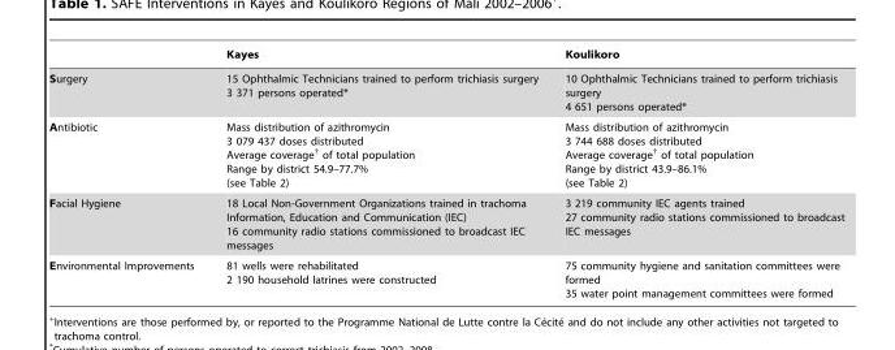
<table><thead><tr><td></td><td>Kayes</td><td>Koulikoro</td></tr></thead><tbody><tr><td>Surgery</td><td>15 Ophthalmic Technicians trained to perform trichiasis surgery 3 371 persons operated*</td><td>10 Ophthalmic Technicians trained to perform trichiasis surgery 4 651 persons operated*</td></tr><tr><td>Antibiotic</td><td>Mass distribution of azithromycin 3 079 437 doses distributed Average coverage† of total population Range by district 54.9–77.7% (see Table 2)</td><td>Mass distribution of azithromycin 3 744 688 doses distributed Average coverage† of total population Range by district 43.9–86.1% (see Table 2)</td></tr><tr><td>Facial Hygiene</td><td>18 Local Non-Government Organizations trained in trachoma Information, Education and Communication (IEC) 16 community radio stations commissioned to broadcast IEC messages</td><td>3 219 community IEC agents trained 27 community radio stations commissioned to broadcast IEC messages</td></tr><tr><td>Environmental Improvements</td><td>81 wells were rehabilitated 2 190 household latrines were constructed</td><td>75 community hygiene and sanitation committees were formed 35 water point management committees were formed</td></tr></tbody></table>